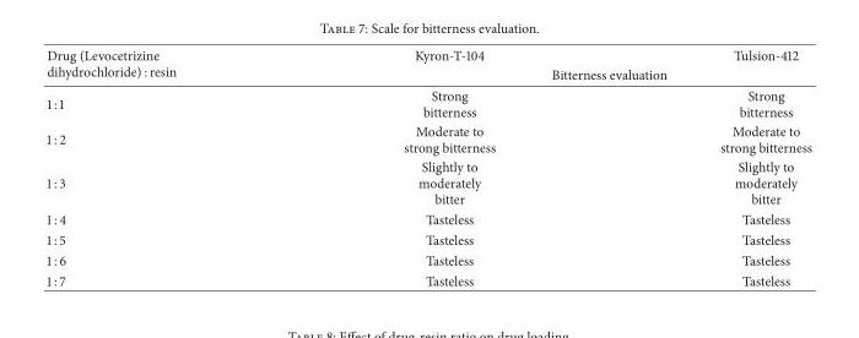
<table><thead><tr><td rowspan="2">Drug (Levocetrizine dihydrochloride) : resin</td><td>Kyron-T-104</td><td>Tulsion-412</td></tr><tr><td colspan="2">Bitterness evaluation</td></tr></thead><tbody><tr><td>1 : 1</td><td>Strong bitterness</td><td>Strong bitterness</td></tr><tr><td>1 : 2</td><td>Moderate to strong bitterness</td><td>Moderate to strong bitterness</td></tr><tr><td>1 : 3</td><td>Slightly to moderately bitter</td><td>Slightly to moderately bitter</td></tr><tr><td>1 : 4</td><td>Tasteless</td><td>Tasteless</td></tr><tr><td>1 : 5</td><td>Tasteless</td><td>Tasteless</td></tr><tr><td>1 : 6</td><td>Tasteless</td><td>Tasteless</td></tr><tr><td>1 : 7</td><td>Tasteless</td><td>Tasteless</td></tr></tbody></table>